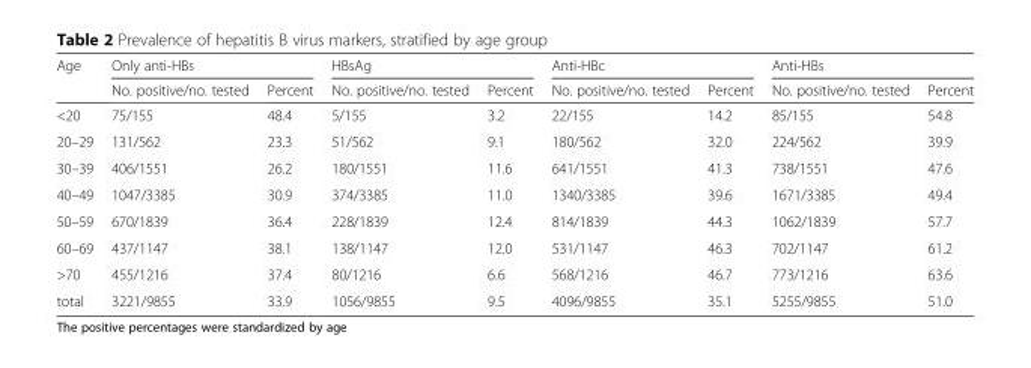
<table><thead><tr><td rowspan="2">Age</td><td colspan="2">Only anti-HBs</td><td colspan="2">HBsAg</td><td colspan="2">Anti-HBc</td><td colspan="2">Anti-HBs</td></tr><tr><td>No. positive/no. tested</td><td>Percent</td><td>No. positive/no. tested</td><td>Percent</td><td>No. positive/no. tested</td><td>Percent</td><td>No. positive/no. tested</td><td>Percent</td></tr></thead><tbody><tr><td>&lt;20</td><td>75/155</td><td>48.4</td><td>5/155</td><td>3.2</td><td>22/155</td><td>14.2</td><td>85/155</td><td>54.8</td></tr><tr><td>20–29</td><td>131/562</td><td>23.3</td><td>51/562</td><td>9.1</td><td>180/562</td><td>32.0</td><td>224/562</td><td>39.9</td></tr><tr><td>30–39</td><td>406/1551</td><td>26.2</td><td>180/1551</td><td>11.6</td><td>641/1551</td><td>41.3</td><td>738/1551</td><td>47.6</td></tr><tr><td>40–49</td><td>1047/3385</td><td>30.9</td><td>374/3385</td><td>11.0</td><td>1340/3385</td><td>39.6</td><td>1671/3385</td><td>49.4</td></tr><tr><td>50–59</td><td>670/1839</td><td>36.4</td><td>228/1839</td><td>12.4</td><td>814/1839</td><td>44.3</td><td>1062/1839</td><td>57.7</td></tr><tr><td>60–69</td><td>437/1147</td><td>38.1</td><td>138/1147</td><td>12.0</td><td>531/1147</td><td>46.3</td><td>702/1147</td><td>61.2</td></tr><tr><td>&gt;70</td><td>455/1216</td><td>37.4</td><td>80/1216</td><td>6.6</td><td>568/1216</td><td>46.7</td><td>773/1216</td><td>63.6</td></tr><tr><td>total</td><td>3221/9855</td><td>33.9</td><td>1056/9855</td><td>9.5</td><td>4096/9855</td><td>35.1</td><td>5255/9855</td><td>51.0</td></tr></tbody></table>